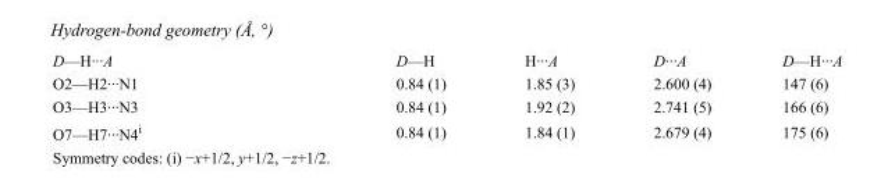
<table><tbody><tr><td>D—H···A</td><td>D—H</td><td>H···A</td><td>D···A</td><td>D—H···A</td></tr><tr><td>O2—H2···N1</td><td>0.84 (1)</td><td>1.85 (3)</td><td>2.600 (4)</td><td>147 (6)</td></tr><tr><td>O3—H3···N3</td><td>0.84 (1)</td><td>1.92 (2)</td><td>2.741 (5)</td><td>166 (6)</td></tr><tr><td>O7—H7···N4<sup>i</sup></td><td>0.84 (1)</td><td>1.84 (1)</td><td>2.679 (4)</td><td>175 (6)</td></tr></tbody></table>